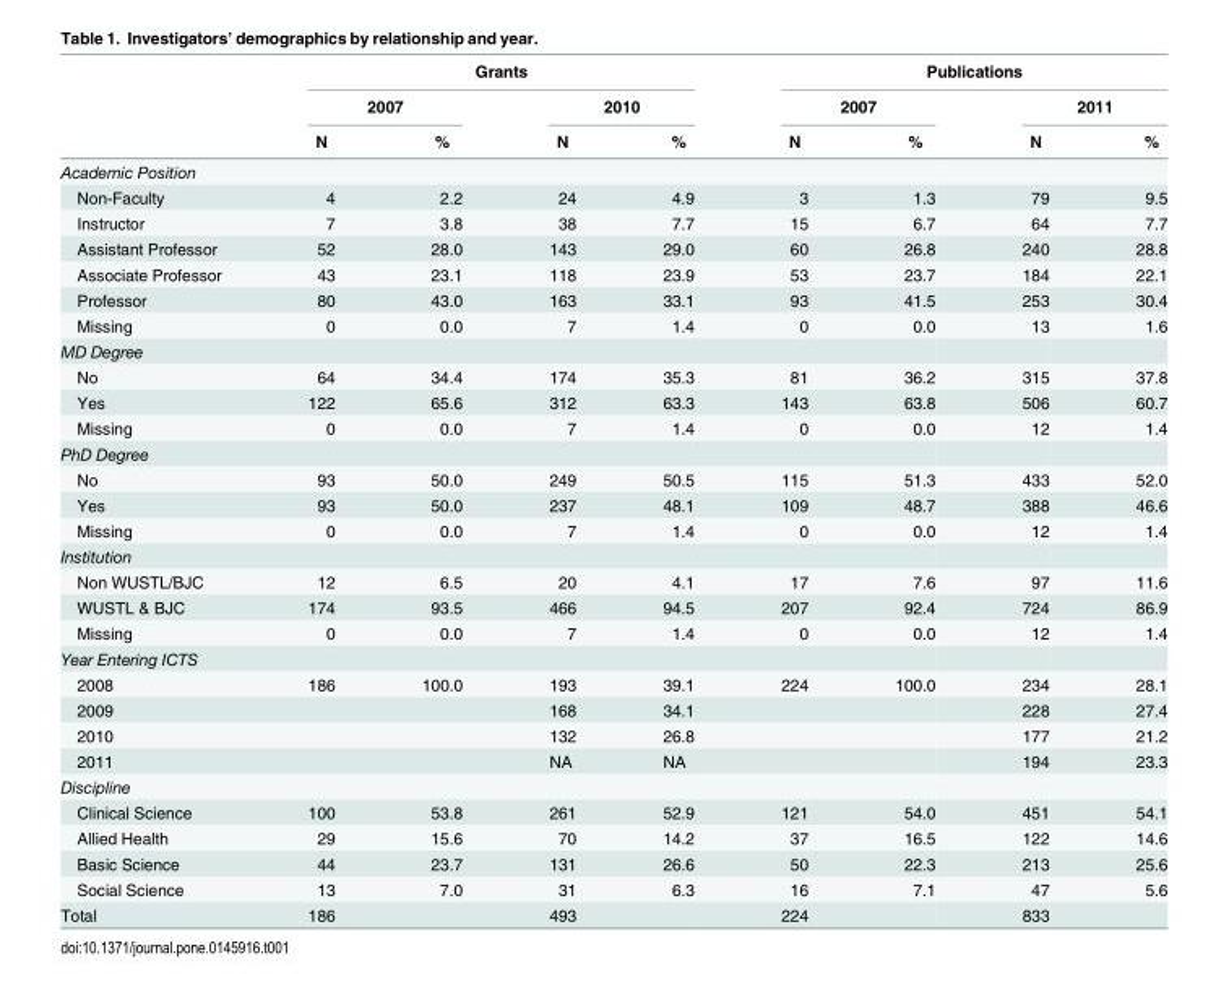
<table><thead><tr><td rowspan="3"></td><td colspan="4">Grants</td><td colspan="4">Publications</td></tr><tr><td colspan="2">2007</td><td colspan="2">2010</td><td colspan="2">2007</td><td colspan="2">2011</td></tr><tr><td>N</td><td>%</td><td>N</td><td>%</td><td>N</td><td>%</td><td>N</td><td>%</td></tr></thead><tbody><tr><td colspan="9">Academic Position</td></tr><tr><td>Non-Faculty</td><td>4</td><td>2.2</td><td>24</td><td>4.9</td><td>3</td><td>1.3</td><td>79</td><td>9.5</td></tr><tr><td>Instructor</td><td>7</td><td>3.8</td><td>38</td><td>7.7</td><td>15</td><td>6.7</td><td>64</td><td>7.7</td></tr><tr><td>Assistant Professor</td><td>52</td><td>28.0</td><td>143</td><td>29.0</td><td>60</td><td>26.8</td><td>240</td><td>28.8</td></tr><tr><td>Associate Professor</td><td>43</td><td>23.1</td><td>118</td><td>23.9</td><td>53</td><td>23.7</td><td>184</td><td>22.1</td></tr><tr><td>Professor</td><td>80</td><td>43.0</td><td>163</td><td>33.1</td><td>93</td><td>41.5</td><td>253</td><td>30.4</td></tr><tr><td>Missing</td><td>0</td><td>0.0</td><td>7</td><td>1.4</td><td>0</td><td>0.0</td><td>13</td><td>1.6</td></tr><tr><td colspan="9">MD Degree</td></tr><tr><td>No</td><td>64</td><td>34.4</td><td>174</td><td>35.3</td><td>81</td><td>36.2</td><td>315</td><td>37.8</td></tr><tr><td>Yes</td><td>122</td><td>65.6</td><td>312</td><td>63.3</td><td>143</td><td>63.8</td><td>506</td><td>60.7</td></tr><tr><td>Missing</td><td>0</td><td>0.0</td><td>7</td><td>1.4</td><td>0</td><td>0.0</td><td>12</td><td>1.4</td></tr><tr><td colspan="9">PhD Degree</td></tr><tr><td>No</td><td>93</td><td>50.0</td><td>249</td><td>50.5</td><td>115</td><td>51.3</td><td>433</td><td>52.0</td></tr><tr><td>Yes</td><td>93</td><td>50.0</td><td>237</td><td>48.1</td><td>109</td><td>48.7</td><td>388</td><td>46.6</td></tr><tr><td>Missing</td><td>0</td><td>0.0</td><td>7</td><td>1.4</td><td>0</td><td>0.0</td><td>12</td><td>1.4</td></tr><tr><td colspan="9">Institution</td></tr><tr><td>Non WUSTL/BJC</td><td>12</td><td>6.5</td><td>20</td><td>4.1</td><td>17</td><td>7.6</td><td>97</td><td>11.6</td></tr><tr><td>WUSTL &amp; BJC</td><td>174</td><td>93.5</td><td>466</td><td>94.5</td><td>207</td><td>92.4</td><td>724</td><td>86.9</td></tr><tr><td>Missing</td><td>0</td><td>0.0</td><td>7</td><td>1.4</td><td>0</td><td>0.0</td><td>12</td><td>1.4</td></tr><tr><td colspan="9">Year Entering ICTS</td></tr><tr><td>2008</td><td>186</td><td>100.0</td><td>193</td><td>39.1</td><td>224</td><td>100.0</td><td>234</td><td>28.1</td></tr><tr><td>2009</td><td></td><td></td><td>168</td><td>34.1</td><td></td><td></td><td>228</td><td>27.4</td></tr><tr><td>2010</td><td></td><td></td><td>132</td><td>26.8</td><td></td><td></td><td>177</td><td>21.2</td></tr><tr><td>2011</td><td></td><td></td><td>NA</td><td>NA</td><td></td><td></td><td>194</td><td>23.3</td></tr><tr><td colspan="9">Discipline</td></tr><tr><td>Clinical Science</td><td>100</td><td>53.8</td><td>261</td><td>52.9</td><td>121</td><td>54.0</td><td>451</td><td>54.1</td></tr><tr><td>Allied Health</td><td>29</td><td>15.6</td><td>70</td><td>14.2</td><td>37</td><td>16.5</td><td>122</td><td>14.6</td></tr><tr><td>Basic Science</td><td>44</td><td>23.7</td><td>131</td><td>26.6</td><td>50</td><td>22.3</td><td>213</td><td>25.6</td></tr><tr><td>Social Science</td><td>13</td><td>7.0</td><td>31</td><td>6.3</td><td>16</td><td>7.1</td><td>47</td><td>5.6</td></tr><tr><td>Total</td><td>186</td><td></td><td>493</td><td></td><td>224</td><td></td><td>833</td><td></td></tr></tbody></table>